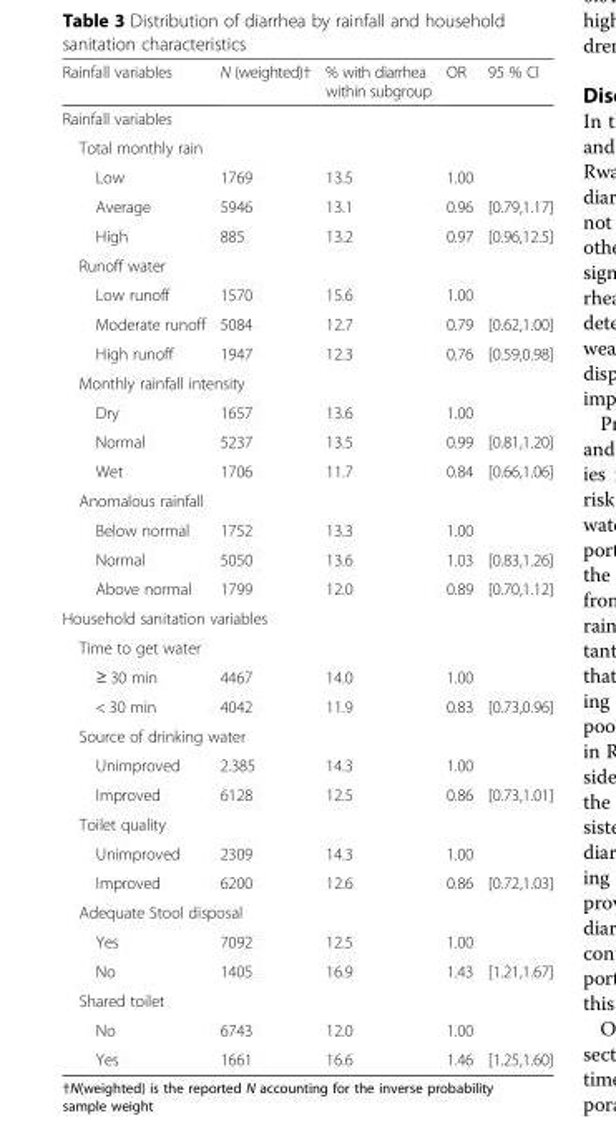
<table><thead><tr><td>Rainfall variables</td><td>N (weighted)†</td><td>% with diarrhea within subgroup</td><td>OR</td><td>95 % CI</td></tr></thead><tbody><tr><td colspan="5">Rainfall variables</td></tr><tr><td colspan="5">Total monthly rain</td></tr><tr><td>Low</td><td>1769</td><td>13.5</td><td>1.00</td><td></td></tr><tr><td>Average</td><td>5946</td><td>13.1</td><td>0.96</td><td>[0.79,1.17]</td></tr><tr><td>High</td><td>885</td><td>13.2</td><td>0.97</td><td>[0.96,12.5]</td></tr><tr><td colspan="5">Runoff water</td></tr><tr><td>Low runoff</td><td>1570</td><td>15.6</td><td>1.00</td><td></td></tr><tr><td>Moderate runoff</td><td>5084</td><td>12.7</td><td>0.79</td><td>[0.62,1.00]</td></tr><tr><td>High runoff</td><td>1947</td><td>12.3</td><td>0.76</td><td>[0.59,0.98]</td></tr><tr><td colspan="5">Monthly rainfall intensity</td></tr><tr><td>Dry</td><td>1657</td><td>13.6</td><td>1.00</td><td></td></tr><tr><td>Normal</td><td>5237</td><td>13.5</td><td>0.99</td><td>[0.81,1.20]</td></tr><tr><td>Wet</td><td>1706</td><td>11.7</td><td>0.84</td><td>[0.66,1.06]</td></tr><tr><td colspan="5">Anomalous rainfall</td></tr><tr><td>Below normal</td><td>1752</td><td>13.3</td><td>1.00</td><td></td></tr><tr><td>Normal</td><td>5050</td><td>13.6</td><td>1.03</td><td>[0.83,1.26]</td></tr><tr><td>Above normal</td><td>1799</td><td>12.0</td><td>0.89</td><td>[0.70,1.12]</td></tr><tr><td colspan="5">Household sanitation variables</td></tr><tr><td colspan="5">Time to get water</td></tr><tr><td>≥ 30 min</td><td>4467</td><td>14.0</td><td>1.00</td><td></td></tr><tr><td>&lt; 30 min</td><td>4042</td><td>11.9</td><td>0.83</td><td>[0.73,0.96]</td></tr><tr><td colspan="5">Source of drinking water</td></tr><tr><td>Unimproved</td><td>2.385</td><td>14.3</td><td>1.00</td><td></td></tr><tr><td>Improved</td><td>6128</td><td>12.5</td><td>0.86</td><td>[0.73,1.01]</td></tr><tr><td colspan="5">Toilet quality</td></tr><tr><td>Unimproved</td><td>2309</td><td>14.3</td><td>1.00</td><td></td></tr><tr><td>Improved</td><td>6200</td><td>12.6</td><td>0.86</td><td>[0.72,1.03]</td></tr><tr><td colspan="5">Adequate Stool disposal</td></tr><tr><td>Yes</td><td>7092</td><td>12.5</td><td>1.00</td><td></td></tr><tr><td>No</td><td>1405</td><td>16.9</td><td>1.43</td><td>[1.21,1.67]</td></tr><tr><td colspan="5">Shared toilet</td></tr><tr><td>No</td><td>6743</td><td>12.0</td><td>1.00</td><td></td></tr><tr><td>Yes</td><td>1661</td><td>16.6</td><td>1.46</td><td>[1.25,1.60]</td></tr></tbody></table>